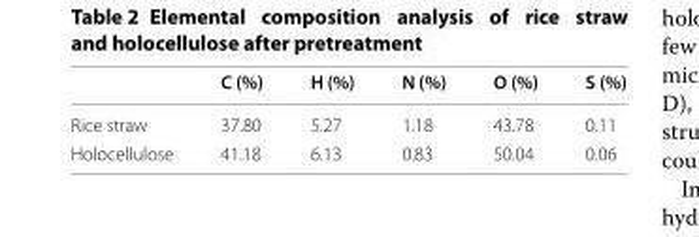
<table><thead><tr><td></td><td>C (%)</td><td>H (%)</td><td>N (%)</td><td>O (%)</td><td>S (%)</td></tr></thead><tbody><tr><td>Rice straw</td><td>37.80</td><td>5.27</td><td>1.18</td><td>43.78</td><td>0.11</td></tr><tr><td>Holocellulose</td><td>41.18</td><td>6.13</td><td>0.83</td><td>50.04</td><td>0.06</td></tr></tbody></table>